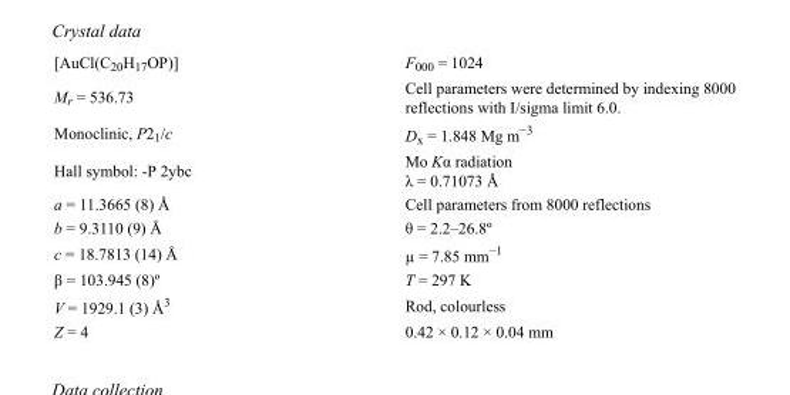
<table><tbody><tr><td>[AuCl(C<sub>20</sub>H<sub>17</sub>OP)]</td><td>F<sub>000</sub> = 1024</td></tr><tr><td>M<sub>r</sub> = 536.73</td><td>Cell parameters were determined by indexing 8000 reflections with I/sigma limit 6.0.</td></tr><tr><td>Monoclinic, P2<sub>1</sub>/c</td><td>D<sub>x</sub> = 1.848 Mg m<sup>−3</sup></td></tr><tr><td>Hall symbol: -P 2ybc</td><td>Mo Kα radiation λ = 0.71073 Å</td></tr><tr><td>a = 11.3665 (8) Å</td><td>Cell parameters from 8000 reflections</td></tr><tr><td>b = 9.3110 (9) Å</td><td>θ = 2.2–26.8º</td></tr><tr><td>c = 18.7813 (14) Å</td><td>µ = 7.85 mm<sup>−1</sup></td></tr><tr><td>β = 103.945 (8)º</td><td>T = 297 K</td></tr><tr><td>V = 1929.1 (3) Å<sup>3</sup></td><td>Rod, colourless</td></tr><tr><td>Z = 4</td><td>0.42 × 0.12 × 0.04 mm</td></tr></tbody></table>